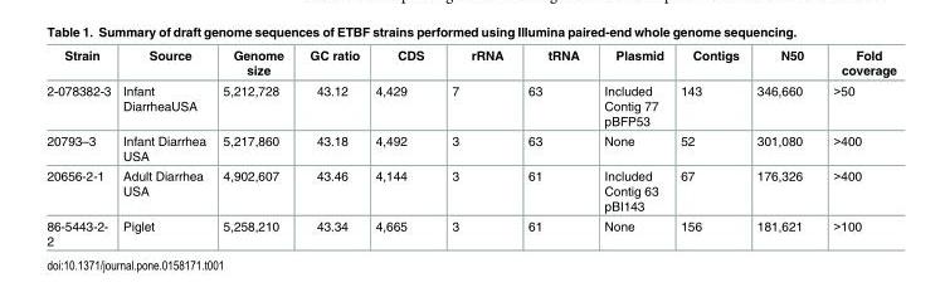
<table><thead><tr><td>Strain</td><td>Source</td><td>Genome size</td><td>GC ratio</td><td>CDS</td><td>rRNA</td><td>tRNA</td><td>Plasmid</td><td>Contigs</td><td>N50</td><td>Fold coverage</td></tr></thead><tbody><tr><td>2-078382-3</td><td>Infant DiarrheaUSA</td><td>5,212,728</td><td>43.12</td><td>4,429</td><td>7</td><td>63</td><td>Included Contig 77 pBFP53</td><td>143</td><td>346,660</td><td>&gt;50</td></tr><tr><td>20793–3</td><td>Infant Diarrhea USA</td><td>5,217,860</td><td>43.18</td><td>4,492</td><td>3</td><td>63</td><td>None</td><td>52</td><td>301,080</td><td>&gt;400</td></tr><tr><td>20656-2-1</td><td>Adult Diarrhea USA</td><td>4,902,607</td><td>43.46</td><td>4,144</td><td>3</td><td>61</td><td>Included Contig 63 pBI143</td><td>67</td><td>176,326</td><td>&gt;400</td></tr><tr><td>86-5443-2- 2</td><td>Piglet</td><td>5,258,210</td><td>43.34</td><td>4,665</td><td>3</td><td>61</td><td>None</td><td>156</td><td>181,621</td><td>&gt;100</td></tr></tbody></table>